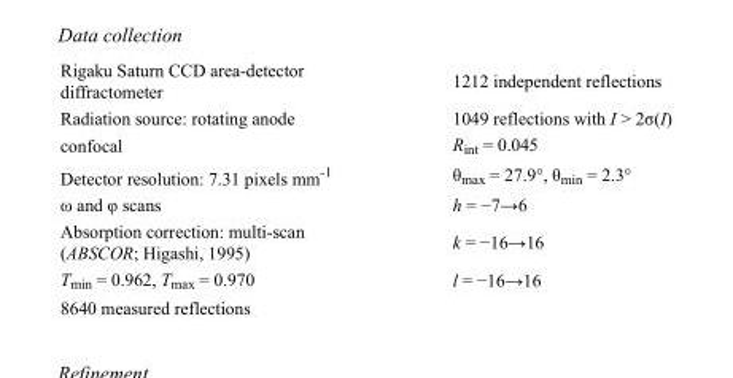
<table><tbody><tr><td>Rigaku Saturn CCD area-detector diffractometer</td><td>1212 independent reflections</td></tr><tr><td>Radiation source: rotating anode</td><td>1049 reflections with I &gt; 2σ(I)</td></tr><tr><td>confocal</td><td>R<sub>int</sub> = 0.045</td></tr><tr><td>Detector resolution: 7.31 pixels mm<sup>-1</sup></td><td>θ<sub>max</sub> = 27.9°, θ<sub>min</sub> = 2.3°</td></tr><tr><td>ω and φ scans</td><td>h = −7→6</td></tr><tr><td>Absorption correction: multi-scan (ABSCOR; Higashi, 1995)</td><td>k = −16→16</td></tr><tr><td>T<sub>min</sub> = 0.962, T<sub>max</sub> = 0.970</td><td>l = −16→16</td></tr><tr><td>8640 measured reflections</td><td></td></tr></tbody></table>